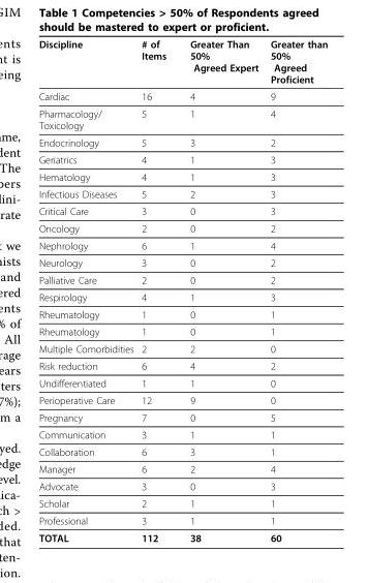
<table><thead><tr><td>Discipline</td><td># of Items</td><td>Greater Than 50% Agreed Expert</td><td>Greater than 50% Agreed Proficient</td></tr></thead><tbody><tr><td>Cardiac</td><td>16</td><td>4</td><td>9</td></tr><tr><td>Pharmacology/ Toxicology</td><td>5</td><td>1</td><td>4</td></tr><tr><td>Endocrinology</td><td>5</td><td>3</td><td>2</td></tr><tr><td>Geriatrics</td><td>4</td><td>1</td><td>3</td></tr><tr><td>Hematology</td><td>4</td><td>1</td><td>3</td></tr><tr><td>Infectious Diseases</td><td>5</td><td>2</td><td>3</td></tr><tr><td>Critical Care</td><td>3</td><td>0</td><td>3</td></tr><tr><td>Oncology</td><td>2</td><td>0</td><td>2</td></tr><tr><td>Nephrology</td><td>6</td><td>1</td><td>4</td></tr><tr><td>Neurology</td><td>3</td><td>0</td><td>2</td></tr><tr><td>Palliative Care</td><td>2</td><td>0</td><td>2</td></tr><tr><td>Respirology</td><td>4</td><td>1</td><td>3</td></tr><tr><td>Rheumatology</td><td>1</td><td>0</td><td>1</td></tr><tr><td>Rheumatology</td><td>1</td><td>0</td><td>1</td></tr><tr><td>Multiple Comorbidities</td><td>2</td><td>2</td><td>0</td></tr><tr><td>Risk reduction</td><td>6</td><td>4</td><td>2</td></tr><tr><td>Undifferentiated</td><td>1</td><td>1</td><td>0</td></tr><tr><td>Perioperative Care</td><td>12</td><td>9</td><td>0</td></tr><tr><td>Pregnancy</td><td>7</td><td>0</td><td>5</td></tr><tr><td>Communication</td><td>3</td><td>1</td><td>1</td></tr><tr><td>Collaboration</td><td>6</td><td>3</td><td>1</td></tr><tr><td>Manager</td><td>6</td><td>2</td><td>4</td></tr><tr><td>Advocate</td><td>3</td><td>0</td><td>3</td></tr><tr><td>Scholar</td><td>2</td><td>1</td><td>1</td></tr><tr><td>Professional</td><td>3</td><td>1</td><td>1</td></tr><tr><td>TOTAL</td><td>112</td><td>38</td><td>60</td></tr></tbody></table>